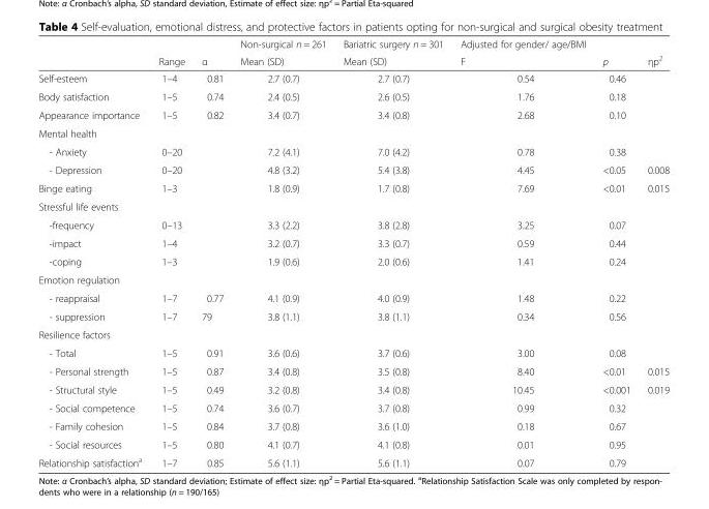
<table><thead><tr><td rowspan="2"></td><td rowspan="2">Range</td><td rowspan="2">α</td><td rowspan="2">Non-surgical n = 261 Mean (SD)</td><td rowspan="2">Bariatric surgery n = 301 Mean (SD)</td><td rowspan="2">Adjusted for gender/ age/BMI F</td><td rowspan="2">p</td><td rowspan="2">ηp<sup>2</sup></td></tr><tr></tr></thead><tbody><tr><td>Self-esteem</td><td>1–4</td><td>0.81</td><td>2.7 (0.7)</td><td>2.7 (0.7)</td><td>0.54</td><td>0.46</td><td></td></tr><tr><td>Body satisfaction</td><td>1–5</td><td>0.74</td><td>2.4 (0.5)</td><td>2.6 (0.5)</td><td>1.76</td><td>0.18</td><td></td></tr><tr><td>Appearance importance</td><td>1–5</td><td>0.82</td><td>3.4 (0.7)</td><td>3.4 (0.8)</td><td>2.68</td><td>0.10</td><td></td></tr><tr><td colspan="8">Mental health</td></tr><tr><td>- Anxiety</td><td>0–20</td><td></td><td>7.2 (4.1)</td><td>7.0 (4.2)</td><td>0.78</td><td>0.38</td><td></td></tr><tr><td>- Depression</td><td>0–20</td><td></td><td>4.8 (3.2)</td><td>5.4 (3.8)</td><td>4.45</td><td>&lt;0.05</td><td>0.008</td></tr><tr><td>Binge eating</td><td>1–3</td><td></td><td>1.8 (0.9)</td><td>1.7 (0.8)</td><td>7.69</td><td>&lt;0.01</td><td>0.015</td></tr><tr><td colspan="8">Stressful life events</td></tr><tr><td>-frequency</td><td>0–13</td><td></td><td>3.3 (2.2)</td><td>3.8 (2.8)</td><td>3.25</td><td>0.07</td><td></td></tr><tr><td>-impact</td><td>1–4</td><td></td><td>3.2 (0.7)</td><td>3.3 (0.7)</td><td>0.59</td><td>0.44</td><td></td></tr><tr><td>-coping</td><td>1–3</td><td></td><td>1.9 (0.6)</td><td>2.0 (0.6)</td><td>1.41</td><td>0.24</td><td></td></tr><tr><td colspan="8">Emotion regulation</td></tr><tr><td>- reappraisal</td><td>1–7</td><td>0.77</td><td>4.1 (0.9)</td><td>4.0 (0.9)</td><td>1.48</td><td>0.22</td><td></td></tr><tr><td>- suppression</td><td>1–7</td><td>79</td><td>3.8 (1.1)</td><td>3.8 (1.1)</td><td>0.34</td><td>0.56</td><td></td></tr><tr><td colspan="8">Resilience factors</td></tr><tr><td>- Total</td><td>1–5</td><td>0.91</td><td>3.6 (0.6)</td><td>3.7 (0.6)</td><td>3.00</td><td>0.08</td><td></td></tr><tr><td>- Personal strength</td><td>1–5</td><td>0.87</td><td>3.4 (0.8)</td><td>3.5 (0.8)</td><td>8.40</td><td>&lt;0.01</td><td>0.015</td></tr><tr><td>- Structural style</td><td>1–5</td><td>0.49</td><td>3.2 (0.8)</td><td>3.4 (0.8)</td><td>10.45</td><td>&lt;0.001</td><td>0.019</td></tr><tr><td>- Social competence</td><td>1–5</td><td>0.74</td><td>3.6 (0.7)</td><td>3.7 (0.8)</td><td>0.99</td><td>0.32</td><td></td></tr><tr><td>- Family cohesion</td><td>1–5</td><td>0.84</td><td>3.7 (0.8)</td><td>3.6 (1.0)</td><td>0.18</td><td>0.67</td><td></td></tr><tr><td>- Social resources</td><td>1–5</td><td>0.80</td><td>4.1 (0.7)</td><td>4.1 (0.8)</td><td>0.01</td><td>0.95</td><td></td></tr><tr><td>Relationship satisfaction<sup>a</sup></td><td>1–7</td><td>0.85</td><td>5.6 (1.1)</td><td>5.6 (1.1)</td><td>0.07</td><td>0.79</td><td></td></tr></tbody></table>